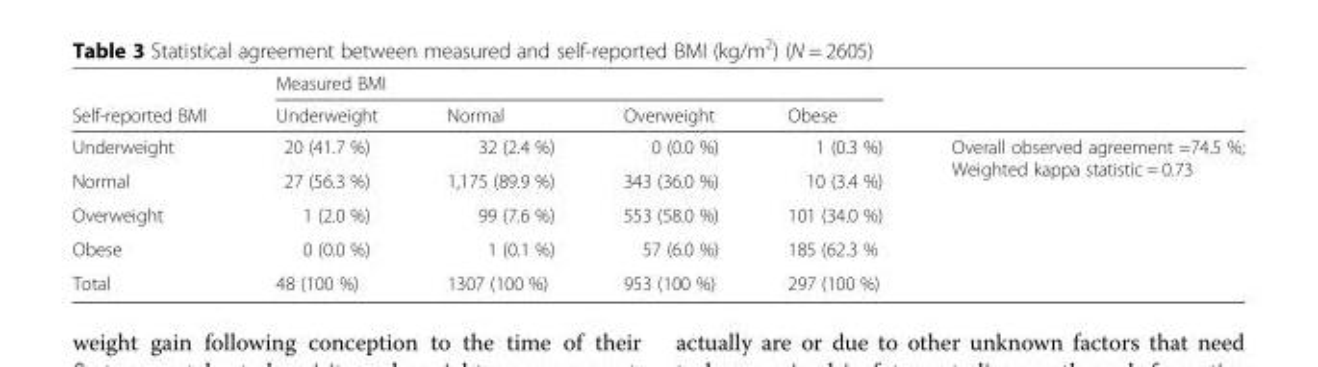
<table><thead><tr><td rowspan="2">Self-reported BMI</td><td colspan="4">Measured BMI</td><td rowspan="2"></td></tr><tr><td>Underweight</td><td>Normal</td><td>Overweight</td><td>Obese</td></tr></thead><tbody><tr><td>Underweight</td><td>20 (41.7 %)</td><td>32 (2.4 %)</td><td>0 (0.0 %)</td><td>1 (0.3 %)</td><td rowspan="4">Overall observed agreement =74.5 %; Weighted kappa statistic = 0.73</td></tr><tr><td>Normal</td><td>27 (56.3 %)</td><td>1,175 (89.9 %)</td><td>343 (36.0 %)</td><td>10 (3.4 %)</td></tr><tr><td>Overweight</td><td>1 (2.0 %)</td><td>99 (7.6 %)</td><td>553 (58.0 %)</td><td>101 (34.0 %)</td></tr><tr><td>Obese</td><td>0 (0.0 %)</td><td>1 (0.1 %)</td><td>57 (6.0 %)</td><td>185 (62.3 %</td></tr><tr><td>Total</td><td>48 (100 %)</td><td>1307 (100 %)</td><td>953 (100 %)</td><td>297 (100 %)</td><td></td></tr></tbody></table>